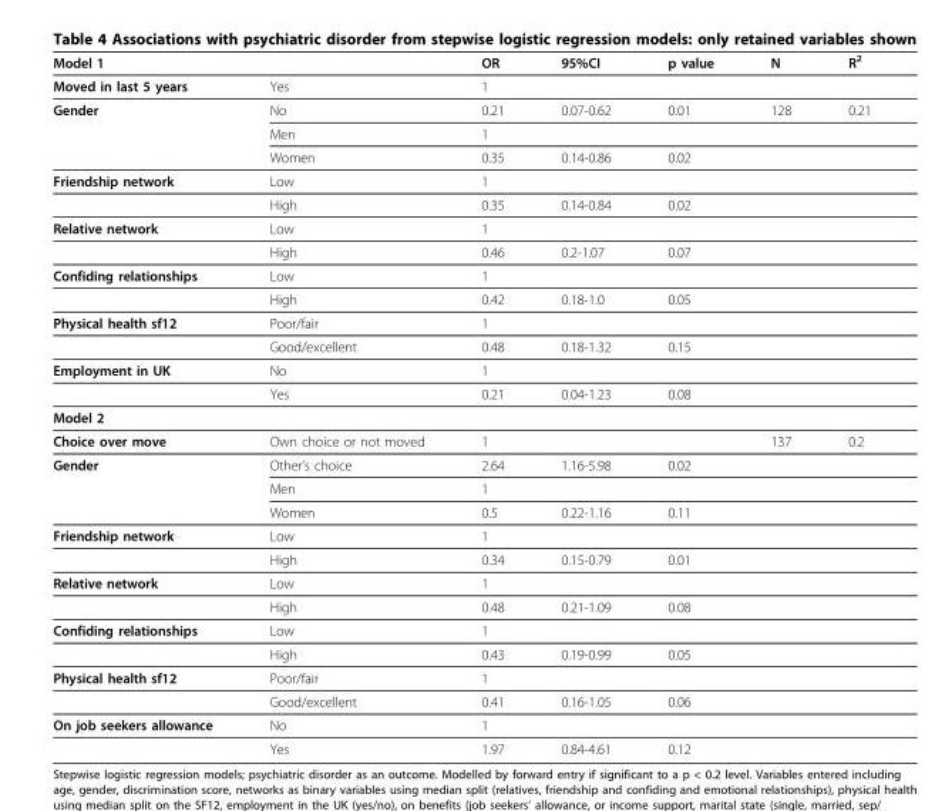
<table><thead><tr><td>Model 1</td><td></td><td>OR</td><td>95%CI</td><td>p value</td><td>N</td><td>R<sup>2</sup></td></tr></thead><tbody><tr><td>Moved in last 5 years</td><td>Yes</td><td>1</td><td></td><td></td><td></td><td></td></tr><tr><td rowspan="3">Gender</td><td>No</td><td>0.21</td><td>0.07-0.62</td><td>0.01</td><td>128</td><td>0.21</td></tr><tr><td>Men</td><td>1</td><td></td><td></td><td></td><td></td></tr><tr><td>Women</td><td>0.35</td><td>0.14-0.86</td><td>0.02</td><td></td><td></td></tr><tr><td rowspan="2">Friendship network</td><td>Low</td><td>1</td><td></td><td></td><td></td><td></td></tr><tr><td>High</td><td>0.35</td><td>0.14-0.84</td><td>0.02</td><td></td><td></td></tr><tr><td rowspan="2">Relative network</td><td>Low</td><td>1</td><td></td><td></td><td></td><td></td></tr><tr><td>High</td><td>0.46</td><td>0.2-1.07</td><td>0.07</td><td></td><td></td></tr><tr><td rowspan="2">Confiding relationships</td><td>Low</td><td>1</td><td></td><td></td><td></td><td></td></tr><tr><td>High</td><td>0.42</td><td>0.18-1.0</td><td>0.05</td><td></td><td></td></tr><tr><td rowspan="2">Physical health sf12</td><td>Poor/fair</td><td>1</td><td></td><td></td><td></td><td></td></tr><tr><td>Good/excellent</td><td>0.48</td><td>0.18-1.32</td><td>0.15</td><td></td><td></td></tr><tr><td rowspan="2">Employment in UK</td><td>No</td><td>1</td><td></td><td></td><td></td><td></td></tr><tr><td>Yes</td><td>0.21</td><td>0.04-1.23</td><td>0.08</td><td></td><td></td></tr><tr><td colspan="7">Model 2</td></tr><tr><td>Choice over move</td><td>Own choice or not moved</td><td>1</td><td></td><td></td><td>137</td><td>0.2</td></tr><tr><td rowspan="3">Gender</td><td>Other’s choice</td><td>2.64</td><td>1.16-5.98</td><td>0.02</td><td></td><td></td></tr><tr><td>Men</td><td>1</td><td></td><td></td><td></td><td></td></tr><tr><td>Women</td><td>0.5</td><td>0.22-1.16</td><td>0.11</td><td></td><td></td></tr><tr><td rowspan="2">Friendship network</td><td>Low</td><td>1</td><td></td><td></td><td></td><td></td></tr><tr><td>High</td><td>0.34</td><td>0.15-0.79</td><td>0.01</td><td></td><td></td></tr><tr><td rowspan="2">Relative network</td><td>Low</td><td>1</td><td></td><td></td><td></td><td></td></tr><tr><td>High</td><td>0.48</td><td>0.21-1.09</td><td>0.08</td><td></td><td></td></tr><tr><td rowspan="2">Confiding relationships</td><td>Low</td><td>1</td><td></td><td></td><td></td><td></td></tr><tr><td>High</td><td>0.43</td><td>0.19-0.99</td><td>0.05</td><td></td><td></td></tr><tr><td rowspan="2">Physical health sf12</td><td>Poor/fair</td><td>1</td><td></td><td></td><td></td><td></td></tr><tr><td>Good/excellent</td><td>0.41</td><td>0.16-1.05</td><td>0.06</td><td></td><td></td></tr><tr><td rowspan="2">On job seekers allowance</td><td>No</td><td>1</td><td></td><td></td><td></td><td></td></tr><tr><td>Yes</td><td>1.97</td><td>0.84-4.61</td><td>0.12</td><td></td><td></td></tr></tbody></table>